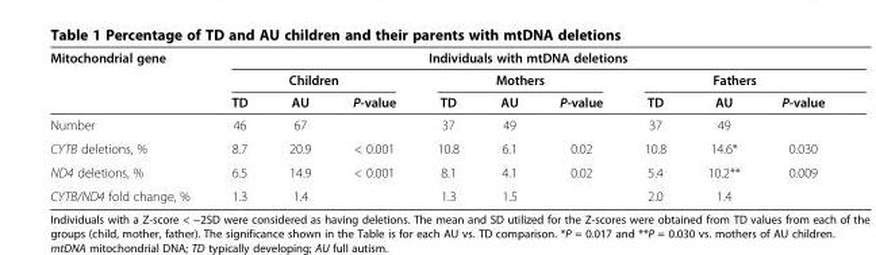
<table><thead><tr><td rowspan="3">Mitochondrial gene</td><td colspan="9">Individuals with mtDNA deletions</td></tr><tr><td colspan="3">Children</td><td colspan="3">Mothers</td><td colspan="3">Fathers</td></tr><tr><td>TD</td><td>AU</td><td>P-value</td><td>TD</td><td>AU</td><td>P-value</td><td>TD</td><td>AU</td><td>P-value</td></tr></thead><tbody><tr><td>Number</td><td>46</td><td>67</td><td></td><td>37</td><td>49</td><td></td><td>37</td><td>49</td><td></td></tr><tr><td>CYTB deletions, %</td><td>8.7</td><td>20.9</td><td>&lt; 0.001</td><td>10.8</td><td>6.1</td><td>0.02</td><td>10.8</td><td>14.6*</td><td>0.030</td></tr><tr><td>ND4 deletions, %</td><td>6.5</td><td>14.9</td><td>&lt; 0.001</td><td>8.1</td><td>4.1</td><td>0.02</td><td>5.4</td><td>10.2**</td><td>0.009</td></tr><tr><td>CYTB/ND4 fold change, %</td><td>1.3</td><td>1.4</td><td></td><td>1.3</td><td>1.5</td><td></td><td>2.0</td><td>1.4</td><td></td></tr></tbody></table>